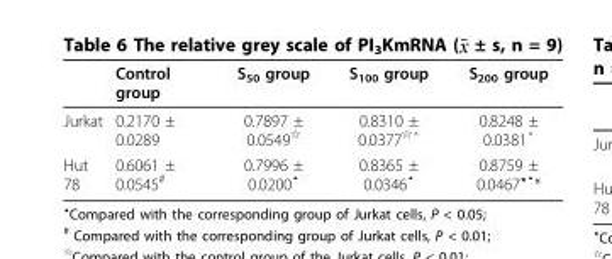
<table><thead><tr><td></td><td>Control group</td><td>S<sub>50</sub> group</td><td>S<sub>100</sub> group</td><td>S<sub>200</sub> group</td></tr></thead><tbody><tr><td>Jurkat</td><td>0.2170 ± 0.0289</td><td>0.7897 ± 0.0549<sup>✩</sup></td><td>0.8310 ± 0.0377<sup>✩▵</sup></td><td>0.8248 ± 0.0381<sup>▵</sup></td></tr><tr><td>Hut 78</td><td>0.6061 ± 0.0545<sup>#</sup></td><td>0.7996 ± 0.0200<sup>▴</sup></td><td>0.8365 ± 0.0346<sup>▴</sup></td><td>0.8759 ± 0.0467<sup>⋆▴</sup>*</td></tr></tbody></table>